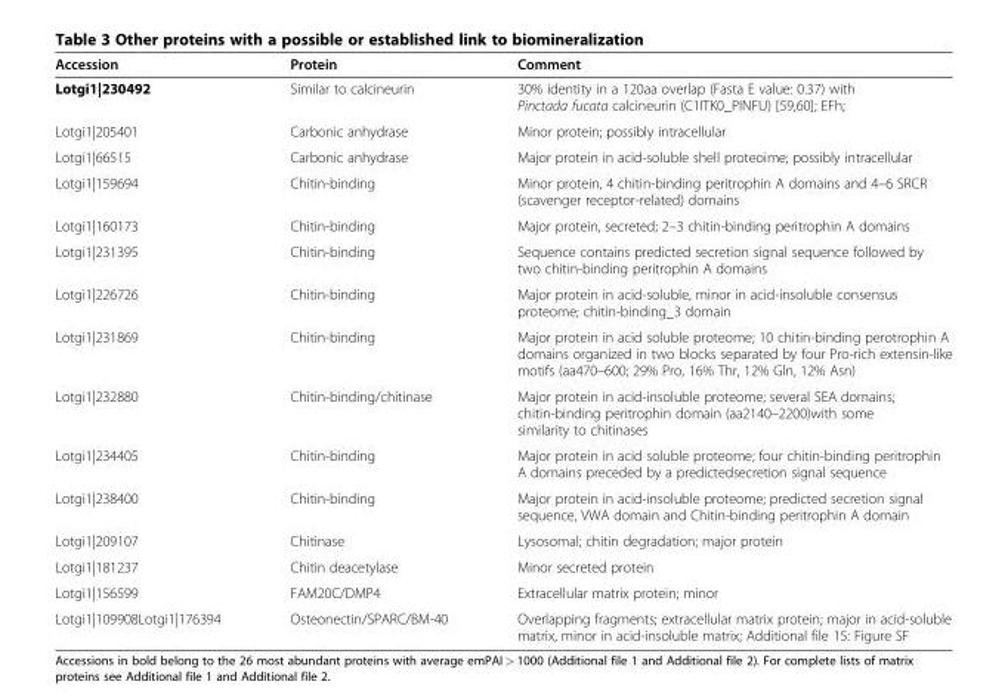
<table><thead><tr><td>Accession</td><td>Protein</td><td>Comment</td></tr></thead><tbody><tr><td>Lotgi1|230492</td><td>Similar to calcineurin</td><td>30% identity in a 120aa overlap (Fasta E value: 0.37) with Pinctada fucata calcineurin (C1ITK0_PINFU) [59,60]; EFh;</td></tr><tr><td>Lotgi1|205401</td><td>Carbonic anhydrase</td><td>Minor protein; possibly intracellular</td></tr><tr><td>Lotgi1|66515</td><td>Carbonic anhydrase</td><td>Major protein in acid-soluble shell proteoime; possibly intracellular</td></tr><tr><td>Lotgi1|159694</td><td>Chitin-binding</td><td>Minor protein, 4 chitin-binding peritrophin A domains and 4–6 SRCR (scavenger receptor-related) domains</td></tr><tr><td>Lotgi1|160173</td><td>Chitin-binding</td><td>Major protein, secreted; 2–3 chitin-binding peritrophin A domains</td></tr><tr><td>Lotgi1|231395</td><td>Chitin-binding</td><td>Sequence contains predicted secretion signal sequence followed by two chitin-binding peritrophin A domains</td></tr><tr><td>Lotgi1|226726</td><td>Chitin-binding</td><td>Major protein in acid-soluble, minor in acid-insoluble consensus proteome; chitin-binding_3 domain</td></tr><tr><td>Lotgi1|231869</td><td>Chitin-binding</td><td>Major protein in acid soluble proteome; 10 chitin-binding perotrophin A domains organized in two blocks separated by four Pro-rich extensin-like motifs (aa470–600; 29% Pro, 16% Thr, 12% Gln, 12% Asn)</td></tr><tr><td>Lotgi1|232880</td><td>Chitin-binding/chitinase</td><td>Major protein in acid-insoluble proteome; several SEA domains; chitin-binding peritrophin domain (aa2140–2200)with some similarity to chitinases</td></tr><tr><td>Lotgi1|234405</td><td>Chitin-binding</td><td>Major protein in acid soluble proteome; four chitin-binding peritrophin A domains preceded by a predictedsecretion signal sequence</td></tr><tr><td>Lotgi1|238400</td><td>Chitin-binding</td><td>Major protein in acid-insoluble proteome; predicted secretion signal sequence, VWA domain and Chitin-binding peritrophin A domain</td></tr><tr><td>Lotgi1|209107</td><td>Chitinase</td><td>Lysosomal; chitin degradation; major protein</td></tr><tr><td>Lotgi1|181237</td><td>Chitin deacetylase</td><td>Minor secreted protein</td></tr><tr><td>Lotgi1|156599</td><td>FAM20C/DMP4</td><td>Extracellular matrix protein; minor</td></tr><tr><td>Lotgi1|109908Lotgi1|176394</td><td>Osteonectin/SPARC/BM-40</td><td>Overlapping fragments; extracellular matrix protein; major in acid-soluble matrix, minor in acid-insoluble matrix; Additional file 15: Figure SF</td></tr></tbody></table>